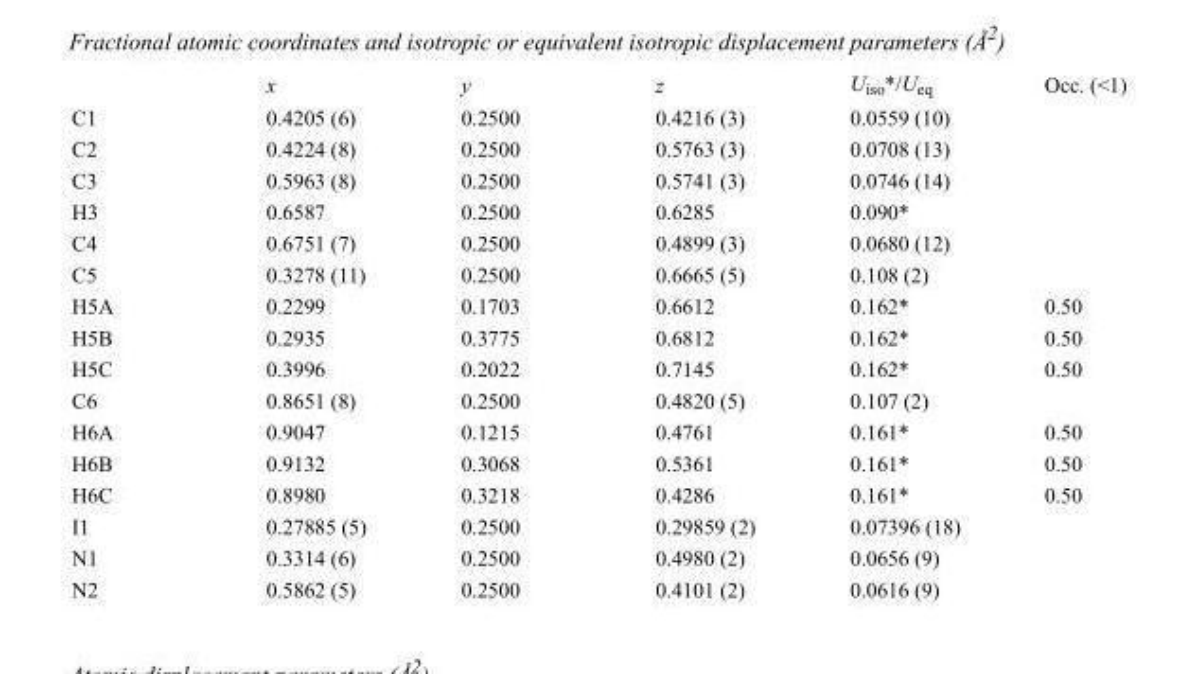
<table><thead><tr><td></td><td>x</td><td>y</td><td>z</td><td>U<sub>iso</sub>*/U<sub>eq</sub></td><td>Occ. (&lt;1)</td></tr></thead><tbody><tr><td>C1</td><td>0.4205 (6)</td><td>0.2500</td><td>0.4216 (3)</td><td>0.0559 (10)</td><td></td></tr><tr><td>C2</td><td>0.4224 (8)</td><td>0.2500</td><td>0.5763 (3)</td><td>0.0708 (13)</td><td></td></tr><tr><td>C3</td><td>0.5963 (8)</td><td>0.2500</td><td>0.5741 (3)</td><td>0.0746 (14)</td><td></td></tr><tr><td>H3</td><td>0.6587</td><td>0.2500</td><td>0.6285</td><td>0.090*</td><td></td></tr><tr><td>C4</td><td>0.6751 (7)</td><td>0.2500</td><td>0.4899 (3)</td><td>0.0680 (12)</td><td></td></tr><tr><td>C5</td><td>0.3278 (11)</td><td>0.2500</td><td>0.6665 (5)</td><td>0.108 (2)</td><td></td></tr><tr><td>H5A</td><td>0.2299</td><td>0.1703</td><td>0.6612</td><td>0.162*</td><td>0.50</td></tr><tr><td>H5B</td><td>0.2935</td><td>0.3775</td><td>0.6812</td><td>0.162*</td><td>0.50</td></tr><tr><td>H5C</td><td>0.3996</td><td>0.2022</td><td>0.7145</td><td>0.162*</td><td>0.50</td></tr><tr><td>C6</td><td>0.8651 (8)</td><td>0.2500</td><td>0.4820 (5)</td><td>0.107 (2)</td><td></td></tr><tr><td>H6A</td><td>0.9047</td><td>0.1215</td><td>0.4761</td><td>0.161*</td><td>0.50</td></tr><tr><td>H6B</td><td>0.9132</td><td>0.3068</td><td>0.5361</td><td>0.161*</td><td>0.50</td></tr><tr><td>H6C</td><td>0.8980</td><td>0.3218</td><td>0.4286</td><td>0.161*</td><td>0.50</td></tr><tr><td>I1</td><td>0.27885 (5)</td><td>0.2500</td><td>0.29859 (2)</td><td>0.07396 (18)</td><td></td></tr><tr><td>N1</td><td>0.3314 (6)</td><td>0.2500</td><td>0.4980 (2)</td><td>0.0656 (9)</td><td></td></tr><tr><td>N2</td><td>0.5862 (5)</td><td>0.2500</td><td>0.4101 (2)</td><td>0.0616 (9)</td><td></td></tr></tbody></table>